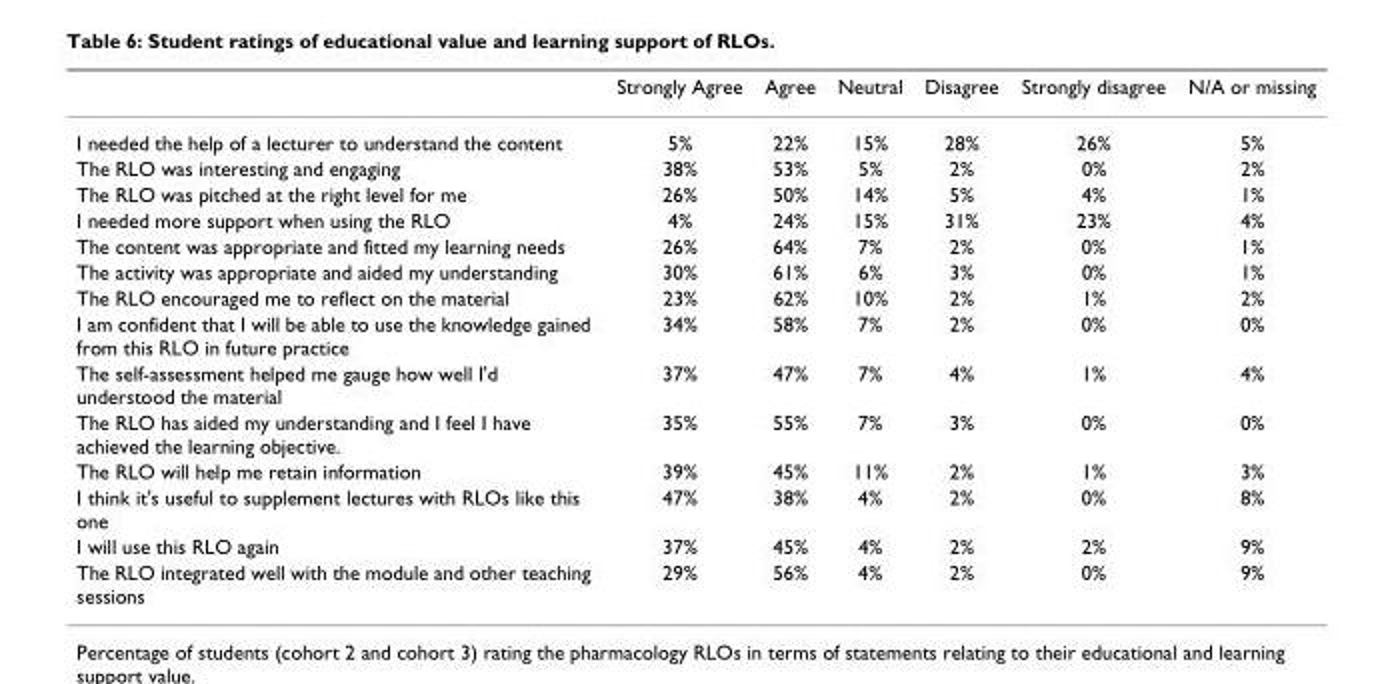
<table><thead><tr><td></td><td>Strongly Agree</td><td>Agree</td><td>Neutral</td><td>Disagree</td><td>Strongly disagree</td><td>N/A or missing</td></tr></thead><tbody><tr><td>I needed the help of a lecturer to understand the content</td><td>5%</td><td>22%</td><td>15%</td><td>28%</td><td>26%</td><td>5%</td></tr><tr><td>The RLO was interesting and engaging</td><td>38%</td><td>53%</td><td>5%</td><td>2%</td><td>0%</td><td>2%</td></tr><tr><td>The RLO was pitched at the right level for me</td><td>26%</td><td>50%</td><td>14%</td><td>5%</td><td>4%</td><td>1%</td></tr><tr><td>I needed more support when using the RLO</td><td>4%</td><td>24%</td><td>15%</td><td>31%</td><td>23%</td><td>4%</td></tr><tr><td>The content was appropriate and fitted my learning needs</td><td>26%</td><td>64%</td><td>7%</td><td>2%</td><td>0%</td><td>1%</td></tr><tr><td>The activity was appropriate and aided my understanding</td><td>30%</td><td>61%</td><td>6%</td><td>3%</td><td>0%</td><td>1%</td></tr><tr><td>The RLO encouraged me to reflect on the material</td><td>23%</td><td>62%</td><td>10%</td><td>2%</td><td>1%</td><td>2%</td></tr><tr><td>I am confident that I will be able to use the knowledge gained from this RLO in future practice</td><td>34%</td><td>58%</td><td>7%</td><td>2%</td><td>0%</td><td>0%</td></tr><tr><td>The self-assessment helped me gauge how well I&#x27;d understood the material</td><td>37%</td><td>47%</td><td>7%</td><td>4%</td><td>1%</td><td>4%</td></tr><tr><td>The RLO has aided my understanding and I feel I have achieved the learning objective.</td><td>35%</td><td>55%</td><td>7%</td><td>3%</td><td>0%</td><td>0%</td></tr><tr><td>The RLO will help me retain information</td><td>39%</td><td>45%</td><td>11%</td><td>2%</td><td>1%</td><td>3%</td></tr><tr><td>I think it&#x27;s useful to supplement lectures with RLOs like this one</td><td>47%</td><td>38%</td><td>4%</td><td>2%</td><td>0%</td><td>8%</td></tr><tr><td>I will use this RLO again</td><td>37%</td><td>45%</td><td>4%</td><td>2%</td><td>2%</td><td>9%</td></tr><tr><td>The RLO integrated well with the module and other teaching sessions</td><td>29%</td><td>56%</td><td>4%</td><td>2%</td><td>0%</td><td>9%</td></tr></tbody></table>